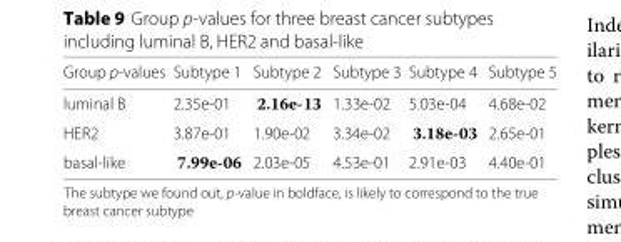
<table><thead><tr><td>Group p-values</td><td>Subtype 1</td><td>Subtype 2</td><td>Subtype 3</td><td>Subtype 4</td><td>Subtype 5</td></tr></thead><tbody><tr><td>luminal B</td><td>2.35e-01</td><td>2.16e-13</td><td>1.33e-02</td><td>5.03e-04</td><td>4.68e-02</td></tr><tr><td>HER2</td><td>3.87e-01</td><td>1.90e-02</td><td>3.34e-02</td><td>3.18e-03</td><td>2.65e-01</td></tr><tr><td>basal-like</td><td>7.99e-06</td><td>2.03e-05</td><td>4.53e-01</td><td>2.91e-03</td><td>4.40e-01</td></tr></tbody></table>